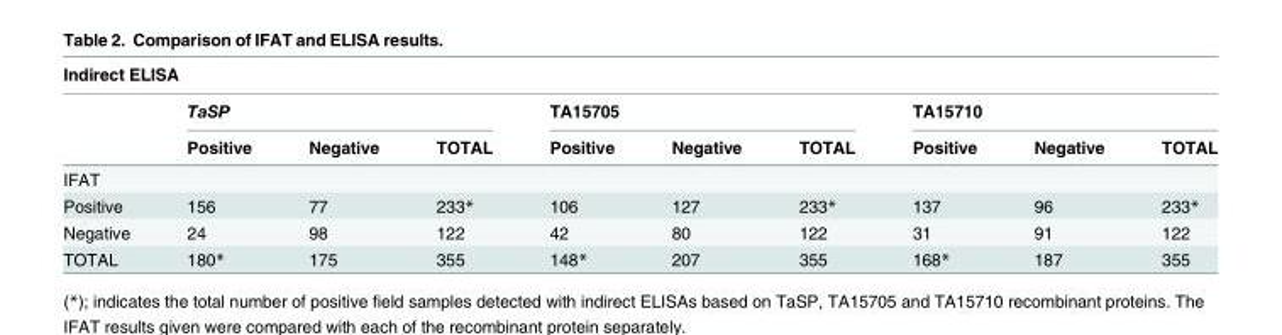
<table><thead><tr><td colspan="10">Indirect ELISA</td></tr><tr><td rowspan="2"></td><td colspan="3">TaSP</td><td colspan="3">TA15705</td><td colspan="3">TA15710</td></tr><tr><td>Positive</td><td>Negative</td><td>TOTAL</td><td>Positive</td><td>Negative</td><td>TOTAL</td><td>Positive</td><td>Negative</td><td>TOTAL</td></tr></thead><tbody><tr><td colspan="10">IFAT</td></tr><tr><td>Positive</td><td>156</td><td>77</td><td>233*</td><td>106</td><td>127</td><td>233*</td><td>137</td><td>96</td><td>233*</td></tr><tr><td>Negative</td><td>24</td><td>98</td><td>122</td><td>42</td><td>80</td><td>122</td><td>31</td><td>91</td><td>122</td></tr><tr><td>TOTAL</td><td>180*</td><td>175</td><td>355</td><td>148*</td><td>207</td><td>355</td><td>168*</td><td>187</td><td>355</td></tr></tbody></table>